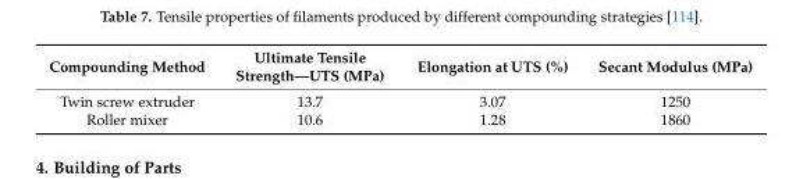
<table><thead><tr><td>Compounding Method</td><td>Ultimate Tensile Strength—UTS (MPa)</td><td>Elongation at UTS (%)</td><td>Secant Modulus (MPa)</td></tr></thead><tbody><tr><td>Twin screw extruder</td><td>13.7</td><td>3.07</td><td>1250</td></tr><tr><td>Roller mixer</td><td>10.6</td><td>1.28</td><td>1860</td></tr></tbody></table>